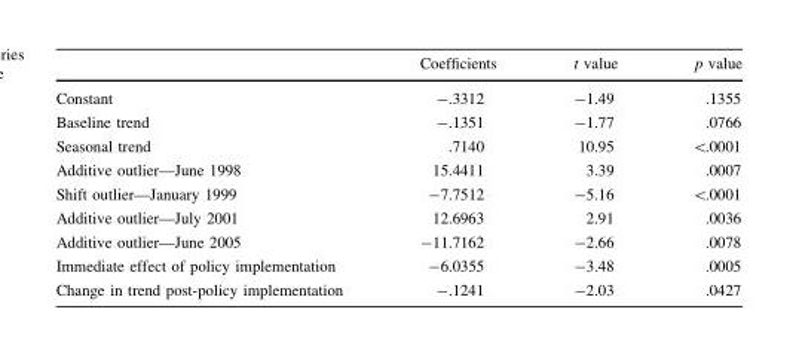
<table><thead><tr><td></td><td>Coefficients</td><td>t value</td><td>p value</td></tr></thead><tbody><tr><td>Constant</td><td>-.3312</td><td>-1.49</td><td>.1355</td></tr><tr><td>Baseline trend</td><td>-.1351</td><td>-1.77</td><td>.0766</td></tr><tr><td>Seasonal trend</td><td>.7140</td><td>10.95</td><td>&lt;.0001</td></tr><tr><td>Additive outlier—June 1998</td><td>15.4411</td><td>3.39</td><td>.0007</td></tr><tr><td>Shift outlier—January 1999</td><td>-7.7512</td><td>-5.16</td><td>&lt;.0001</td></tr><tr><td>Additive outlier—July 2001</td><td>12.6963</td><td>2.91</td><td>.0036</td></tr><tr><td>Additive outlier—June 2005</td><td>-11.7162</td><td>-2.66</td><td>.0078</td></tr><tr><td>Immediate effect of policy implementation</td><td>-6.0355</td><td>-3.48</td><td>.0005</td></tr><tr><td>Change in trend post-policy implementation</td><td>-.1241</td><td>-2.03</td><td>.0427</td></tr></tbody></table>